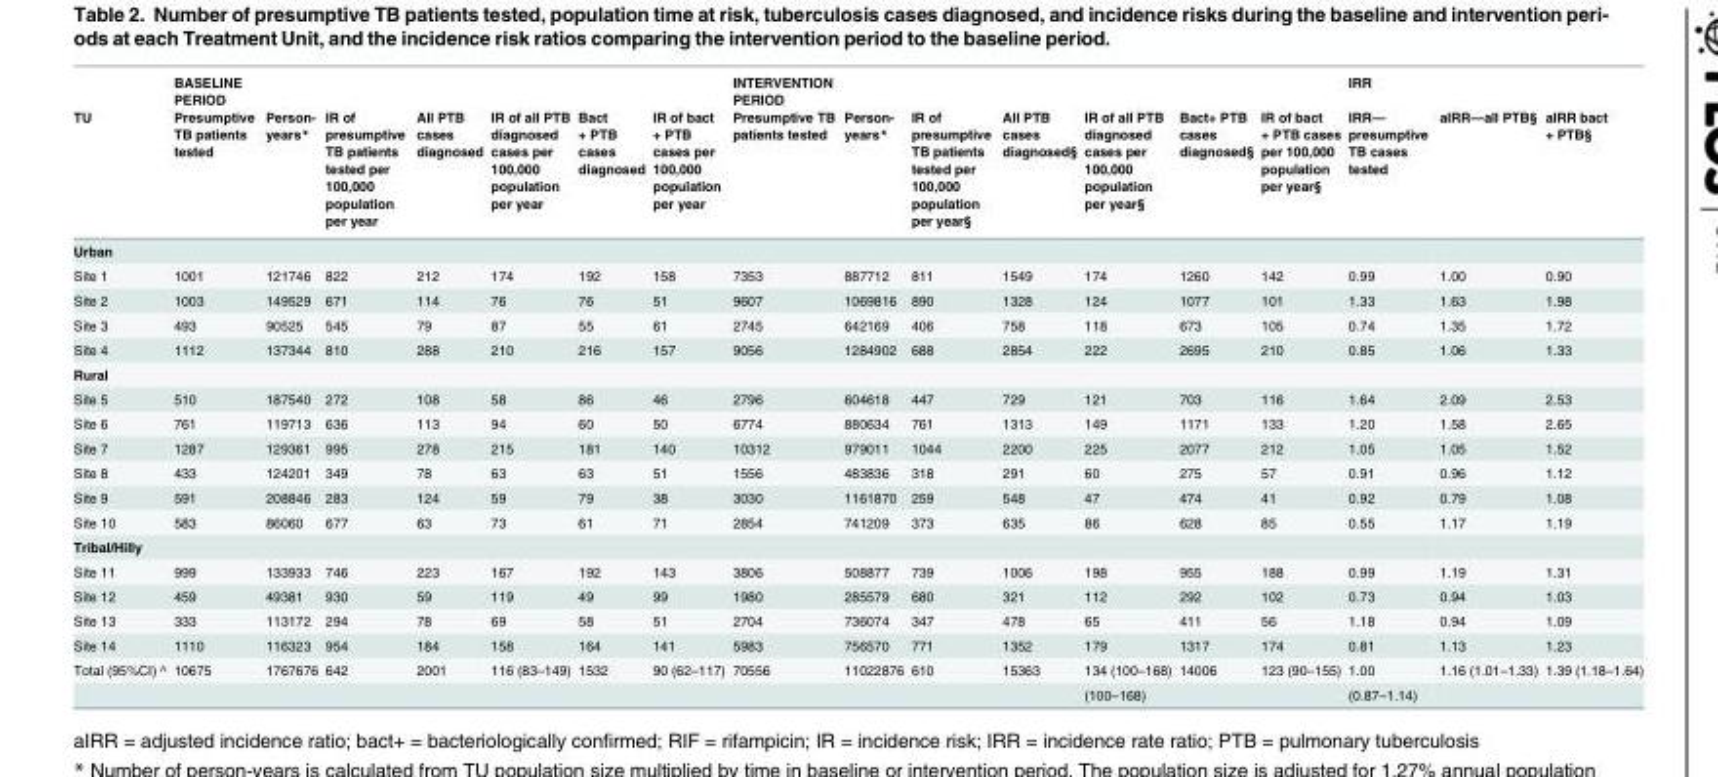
<table><thead><tr><td rowspan="2">TU</td><td rowspan="2">BASELINE PERIOD Presumptive TB patients tested</td><td rowspan="2">Person- years*</td><td rowspan="2">IR of presumptive TB patients tested per 100,000 population per year</td><td rowspan="2">All PTB cases diagnosed</td><td rowspan="2">IR of all PTB diagnosed cases per 100,000 population per year</td><td rowspan="2">Bact + PTB cases diagnosed</td><td rowspan="2">IR of bact + PTB cases per 100,000 population per year</td><td rowspan="2">INTERVENTION PERIOD Presumptive TB patients tested</td><td rowspan="2">Person- years*</td><td rowspan="2">IR of presumptive TB patients tested per 100,000 population per year§</td><td rowspan="2">All PTB cases diagnosed§</td><td rowspan="2">IR of all PTB diagnosed cases per 100,000 population per year§</td><td rowspan="2">Bact+ PTB cases diagnosed§</td><td rowspan="2">IR of bact + PTB cases per 100,000 population per year§</td><td rowspan="2">IRR IRR— presumptive TB cases tested</td><td rowspan="2">aIRR—all PTB§</td><td rowspan="2">aIRR bact + PTB§</td></tr><tr></tr></thead><tbody><tr><td colspan="18">Urban</td></tr><tr><td>Site 1</td><td>1001</td><td>121746</td><td>822</td><td>212</td><td>174</td><td>192</td><td>158</td><td>7353</td><td>887712</td><td>811</td><td>1549</td><td>174</td><td>1260</td><td>142</td><td>0.99</td><td>1.00</td><td>0.90</td></tr><tr><td>Site 2</td><td>1003</td><td>149529</td><td>671</td><td>114</td><td>76</td><td>76</td><td>51</td><td>9607</td><td>1069816</td><td>890</td><td>1328</td><td>124</td><td>1077</td><td>101</td><td>1.33</td><td>1.63</td><td>1.98</td></tr><tr><td>Site 3</td><td>493</td><td>90525</td><td>545</td><td>79</td><td>87</td><td>55</td><td>61</td><td>2745</td><td>642169</td><td>406</td><td>758</td><td>118</td><td>673</td><td>105</td><td>0.74</td><td>1.35</td><td>1.72</td></tr><tr><td>Site 4</td><td>1112</td><td>137344</td><td>810</td><td>288</td><td>210</td><td>216</td><td>157</td><td>9056</td><td>1284902</td><td>688</td><td>2854</td><td>222</td><td>2695</td><td>210</td><td>0.85</td><td>1.06</td><td>1.33</td></tr><tr><td colspan="18">Rural</td></tr><tr><td>Site 5</td><td>510</td><td>187540</td><td>272</td><td>108</td><td>58</td><td>86</td><td>46</td><td>2796</td><td>604618</td><td>447</td><td>729</td><td>121</td><td>703</td><td>116</td><td>1.64</td><td>2.09</td><td>2.53</td></tr><tr><td>Site 6</td><td>761</td><td>119713</td><td>636</td><td>113</td><td>94</td><td>60</td><td>50</td><td>6774</td><td>880634</td><td>761</td><td>1313</td><td>149</td><td>1171</td><td>133</td><td>1.20</td><td>1.58</td><td>2.65</td></tr><tr><td>Site 7</td><td>1287</td><td>129361</td><td>995</td><td>278</td><td>215</td><td>181</td><td>140</td><td>10312</td><td>979011</td><td>1044</td><td>2200</td><td>225</td><td>2077</td><td>212</td><td>1.05</td><td>1.05</td><td>1.52</td></tr><tr><td>Site 8</td><td>433</td><td>124201</td><td>349</td><td>78</td><td>63</td><td>63</td><td>51</td><td>1556</td><td>483836</td><td>318</td><td>291</td><td>60</td><td>275</td><td>57</td><td>0.91</td><td>0.96</td><td>1.12</td></tr><tr><td>Site 9</td><td>591</td><td>208846</td><td>283</td><td>124</td><td>59</td><td>79</td><td>38</td><td>3030</td><td>1161870</td><td>259</td><td>548</td><td>47</td><td>474</td><td>41</td><td>0.92</td><td>0.79</td><td>1.08</td></tr><tr><td>Site 10</td><td>583</td><td>86060</td><td>677</td><td>63</td><td>73</td><td>61</td><td>71</td><td>2854</td><td>741209</td><td>373</td><td>635</td><td>86</td><td>628</td><td>85</td><td>0.55</td><td>1.17</td><td>1.19</td></tr><tr><td colspan="18">Tribal/Hilly</td></tr><tr><td>Site 11</td><td>999</td><td>133933</td><td>746</td><td>223</td><td>167</td><td>192</td><td>143</td><td>3806</td><td>508877</td><td>739</td><td>1006</td><td>198</td><td>955</td><td>188</td><td>0.99</td><td>1.19</td><td>1.31</td></tr><tr><td>Site 12</td><td>459</td><td>49381</td><td>930</td><td>59</td><td>119</td><td>49</td><td>99</td><td>1980</td><td>285579</td><td>680</td><td>321</td><td>112</td><td>292</td><td>102</td><td>0.73</td><td>0.94</td><td>1.03</td></tr><tr><td>Site 13</td><td>333</td><td>113172</td><td>294</td><td>78</td><td>69</td><td>58</td><td>51</td><td>2704</td><td>736074</td><td>347</td><td>478</td><td>65</td><td>411</td><td>56</td><td>1.18</td><td>0.94</td><td>1.09</td></tr><tr><td>Site 14</td><td>1110</td><td>116323</td><td>954</td><td>184</td><td>158</td><td>164</td><td>141</td><td>5983</td><td>756570</td><td>771</td><td>1352</td><td>179</td><td>1317</td><td>174</td><td>0.81</td><td>1.13</td><td>1.23</td></tr><tr><td rowspan="2">Total (95%CI) ^</td><td>10675</td><td>1767676</td><td>642</td><td>2001</td><td>116 (83–149)</td><td>1532</td><td>90 (62–117)</td><td>70556</td><td>11022876</td><td>610</td><td>15363</td><td>134 (100–168)</td><td>14006</td><td>123 (90–155)</td><td>1.00</td><td>1.16 (1.01–1.33)</td><td>1.39 (1.18–1.64)</td></tr><tr><td></td><td></td><td></td><td></td><td></td><td></td><td></td><td></td><td></td><td></td><td></td><td>(100–168)</td><td></td><td></td><td>(0.87–1.14)</td><td></td><td></td></tr></tbody></table>